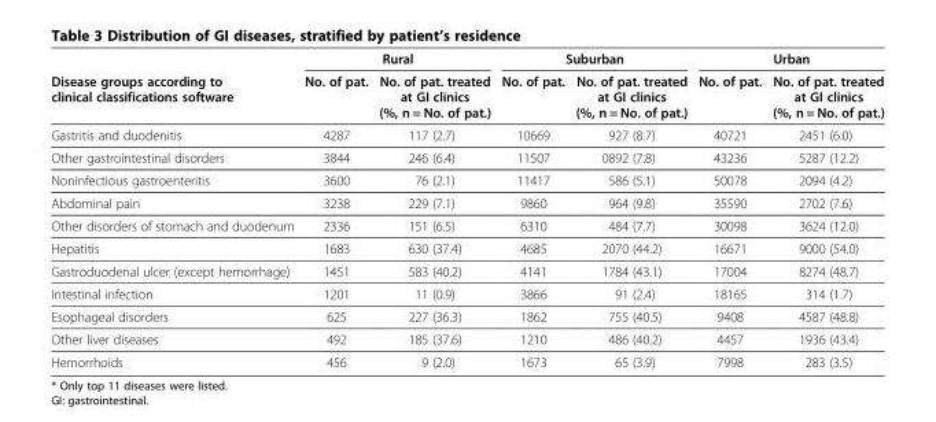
<table><thead><tr><td rowspan="2">Disease groups according to clinical classifications software</td><td colspan="2">Rural</td><td colspan="2">Suburban</td><td colspan="2">Urban</td></tr><tr><td>No. of pat.</td><td>No. of pat. treated at GI clinics (%, n = No. of pat.)</td><td>No. of pat.</td><td>No. of pat. treated at GI clinics (%, n = No. of pat.)</td><td>No. of pat.</td><td>No. of pat. treated at GI clinics (%, n = No. of pat.)</td></tr></thead><tbody><tr><td>Gastritis and duodenitis</td><td>4287</td><td>117 (2.7)</td><td>10669</td><td>927 (8.7)</td><td>40721</td><td>2451 (6.0)</td></tr><tr><td>Other gastrointestinal disorders</td><td>3844</td><td>246 (6.4)</td><td>11507</td><td>0892 (7.8)</td><td>43236</td><td>5287 (12.2)</td></tr><tr><td>Noninfectious gastroenteritis</td><td>3600</td><td>76 (2.1)</td><td>11417</td><td>586 (5.1)</td><td>50078</td><td>2094 (4.2)</td></tr><tr><td>Abdominal pain</td><td>3238</td><td>229 (7.1)</td><td>9860</td><td>964 (9.8)</td><td>35590</td><td>2702 (7.6)</td></tr><tr><td>Other disorders of stomach and duodenum</td><td>2336</td><td>151 (6.5)</td><td>6310</td><td>484 (7.7)</td><td>30098</td><td>3624 (12.0)</td></tr><tr><td>Hepatitis</td><td>1683</td><td>630 (37.4)</td><td>4685</td><td>2070 (44.2)</td><td>16671</td><td>9000 (54.0)</td></tr><tr><td>Gastroduodenal ulcer (except hemorrhage)</td><td>1451</td><td>583 (40.2)</td><td>4141</td><td>1784 (43.1)</td><td>17004</td><td>8274 (48.7)</td></tr><tr><td>Intestinal infection</td><td>1201</td><td>11 (0.9)</td><td>3866</td><td>91 (2.4)</td><td>18165</td><td>314 (1.7)</td></tr><tr><td>Esophageal disorders</td><td>625</td><td>227 (36.3)</td><td>1862</td><td>755 (40.5)</td><td>9408</td><td>4587 (48.8)</td></tr><tr><td>Other liver diseases</td><td>492</td><td>185 (37.6)</td><td>1210</td><td>486 (40.2)</td><td>4457</td><td>1936 (43.4)</td></tr><tr><td>Hemorrhoids</td><td>456</td><td>9 (2.0)</td><td>1673</td><td>65 (3.9)</td><td>7998</td><td>283 (3.5)</td></tr></tbody></table>